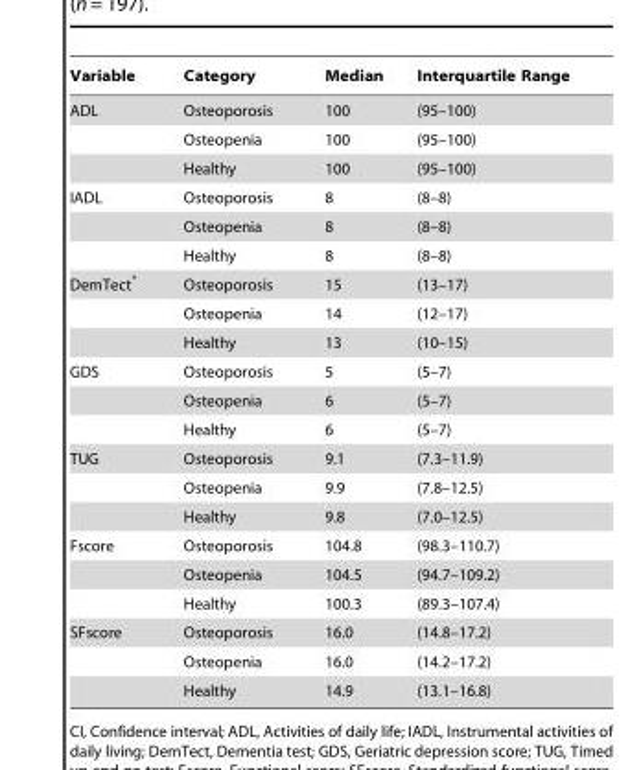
<table><thead><tr><td>Variable</td><td>Category</td><td>Median</td><td>Interquartile Range</td></tr></thead><tbody><tr><td rowspan="3">ADL</td><td>Osteoporosis</td><td>100</td><td>(95–100)</td></tr><tr><td>Osteopenia</td><td>100</td><td>(95–100)</td></tr><tr><td>Healthy</td><td>100</td><td>(95–100)</td></tr><tr><td rowspan="3">IADL</td><td>Osteoporosis</td><td>8</td><td>(8–8)</td></tr><tr><td>Osteopenia</td><td>8</td><td>(8–8)</td></tr><tr><td>Healthy</td><td>8</td><td>(8–8)</td></tr><tr><td rowspan="3">DemTect*</td><td>Osteoporosis</td><td>15</td><td>(13–17)</td></tr><tr><td>Osteopenia</td><td>14</td><td>(12–17)</td></tr><tr><td>Healthy</td><td>13</td><td>(10–15)</td></tr><tr><td rowspan="3">GDS</td><td>Osteoporosis</td><td>5</td><td>(5–7)</td></tr><tr><td>Osteopenia</td><td>6</td><td>(5–7)</td></tr><tr><td>Healthy</td><td>6</td><td>(5–7)</td></tr><tr><td rowspan="3">TUG</td><td>Osteoporosis</td><td>9.1</td><td>(7.3–11.9)</td></tr><tr><td>Osteopenia</td><td>9.9</td><td>(7.8–12.5)</td></tr><tr><td>Healthy</td><td>9.8</td><td>(7.0–12.5)</td></tr><tr><td rowspan="3">Fscore</td><td>Osteoporosis</td><td>104.8</td><td>(98.3–110.7)</td></tr><tr><td>Osteopenia</td><td>104.5</td><td>(94.7–109.2)</td></tr><tr><td>Healthy</td><td>100.3</td><td>(89.3–107.4)</td></tr><tr><td rowspan="3">SFscore</td><td>Osteoporosis</td><td>16.0</td><td>(14.8–17.2)</td></tr><tr><td>Osteopenia</td><td>16.0</td><td>(14.2–17.2)</td></tr><tr><td>Healthy</td><td>14.9</td><td>(13.1–16.8)</td></tr></tbody></table>